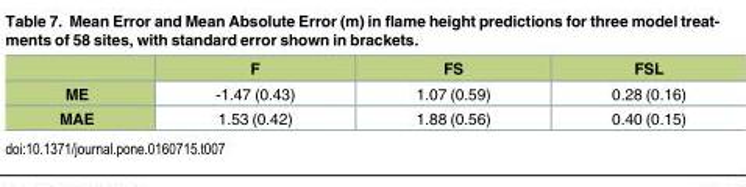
<table><thead><tr><td></td><td>F</td><td>FS</td><td>FSL</td></tr></thead><tbody><tr><td>ME</td><td>-1.47 (0.43)</td><td>1.07 (0.59)</td><td>0.28 (0.16)</td></tr><tr><td>MAE</td><td>1.53 (0.42)</td><td>1.88 (0.56)</td><td>0.40 (0.15)</td></tr></tbody></table>